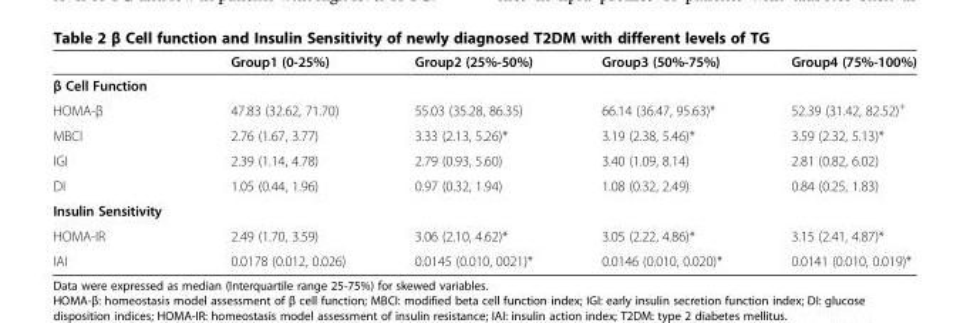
<table><thead><tr><td></td><td>Group1 (0-25%)</td><td>Group2 (25%-50%)</td><td>Group3 (50%-75%)</td><td>Group4 (75%-100%)</td></tr></thead><tbody><tr><td colspan="5">β Cell Function</td></tr><tr><td>HOMA-β</td><td>47.83 (32.62, 71.70)</td><td>55.03 (35.28, 86.35)</td><td>66.14 (36.47, 95.63)*</td><td>52.39 (31.42, 82.52)<sup>+</sup></td></tr><tr><td>MBCI</td><td>2.76 (1.67, 3.77)</td><td>3.33 (2.13, 5.26)*</td><td>3.19 (2.38, 5.46)*</td><td>3.59 (2.32, 5.13)*</td></tr><tr><td>IGI</td><td>2.39 (1.14, 4.78)</td><td>2.79 (0.93, 5.60)</td><td>3.40 (1.09, 8.14)</td><td>2.81 (0.82, 6.02)</td></tr><tr><td>DI</td><td>1.05 (0.44, 1.96)</td><td>0.97 (0.32, 1.94)</td><td>1.08 (0.32, 2.49)</td><td>0.84 (0.25, 1.83)</td></tr><tr><td colspan="5">Insulin Sensitivity</td></tr><tr><td>HOMA-IR</td><td>2.49 (1.70, 3.59)</td><td>3.06 (2.10, 4.62)*</td><td>3.05 (2.22, 4.86)*</td><td>3.15 (2.41, 4.87)*</td></tr><tr><td>IAI</td><td>0.0178 (0.012, 0.026)</td><td>0.0145 (0.010, 0021)*</td><td>0.0146 (0.010, 0.020)*</td><td>0.0141 (0.010, 0.019)*</td></tr></tbody></table>